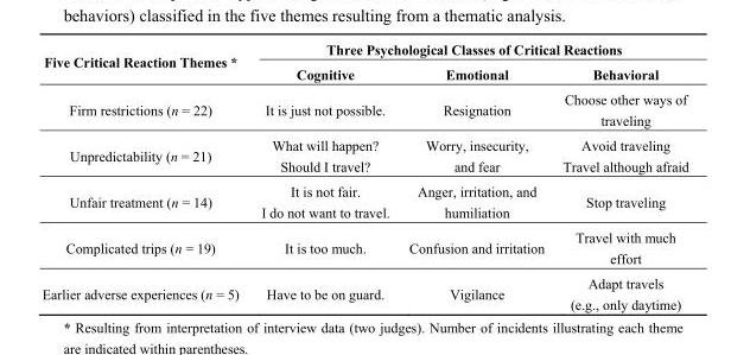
<table><thead><tr><td rowspan="2">Five Critical Reaction Themes *</td><td colspan="3">Three Psychological Classes of Critical Reactions</td></tr><tr><td>Cognitive</td><td>Emotional</td><td>Behavioral</td></tr></thead><tbody><tr><td>Firm restrictions (n = 22)</td><td>It is just not possible.</td><td>Resignation</td><td>Choose other ways of traveling</td></tr><tr><td>Unpredictability (n = 21)</td><td>What will happen? Should I travel?</td><td>Worry, insecurity, and fear</td><td>Avoid traveling Travel although afraid</td></tr><tr><td>Unfair treatment (n = 14)</td><td>It is not fair. I do not want to travel.</td><td>Anger, irritation, and humiliation</td><td>Stop traveling</td></tr><tr><td>Complicated trips (n = 19)</td><td>It is too much.</td><td>Confusion and irritation</td><td>Travel with much effort</td></tr><tr><td>Earlier adverse experiences (n = 5)</td><td>Have to be on guard.</td><td>Vigilance</td><td>Adapt travels (e.g., only daytime)</td></tr></tbody></table>